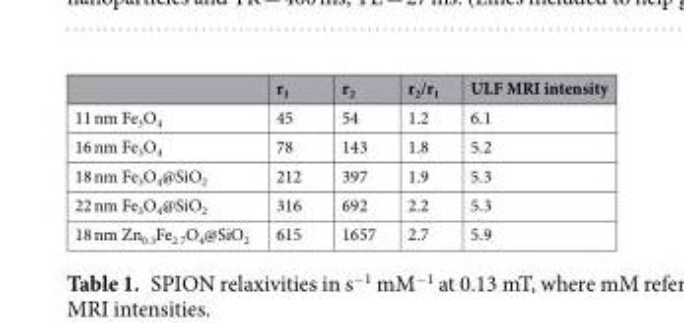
<table><thead><tr><td></td><td>r<sub>1</sub></td><td>r<sub>2</sub></td><td>r<sub>2</sub>/r<sub>1</sub></td><td>ULF MRI intensity</td></tr></thead><tbody><tr><td>11 nm Fe<sub>3</sub>O<sub>4</sub></td><td>45</td><td>54</td><td>1.2</td><td>6.1</td></tr><tr><td>16 nm Fe<sub>3</sub>O<sub>4</sub></td><td>78</td><td>143</td><td>1.8</td><td>5.2</td></tr><tr><td>18 nm Fe<sub>3</sub>O<sub>4</sub>@SiO<sub>2</sub></td><td>212</td><td>397</td><td>1.9</td><td>5.3</td></tr><tr><td>22 nm Fe<sub>3</sub>O<sub>4</sub>@SiO<sub>2</sub></td><td>316</td><td>692</td><td>2.2</td><td>5.3</td></tr><tr><td>18 nm Zn<sub>0.3</sub>Fe<sub>2.7</sub>O<sub>4</sub>@SiO<sub>2</sub></td><td>615</td><td>1657</td><td>2.7</td><td>5.9</td></tr></tbody></table>